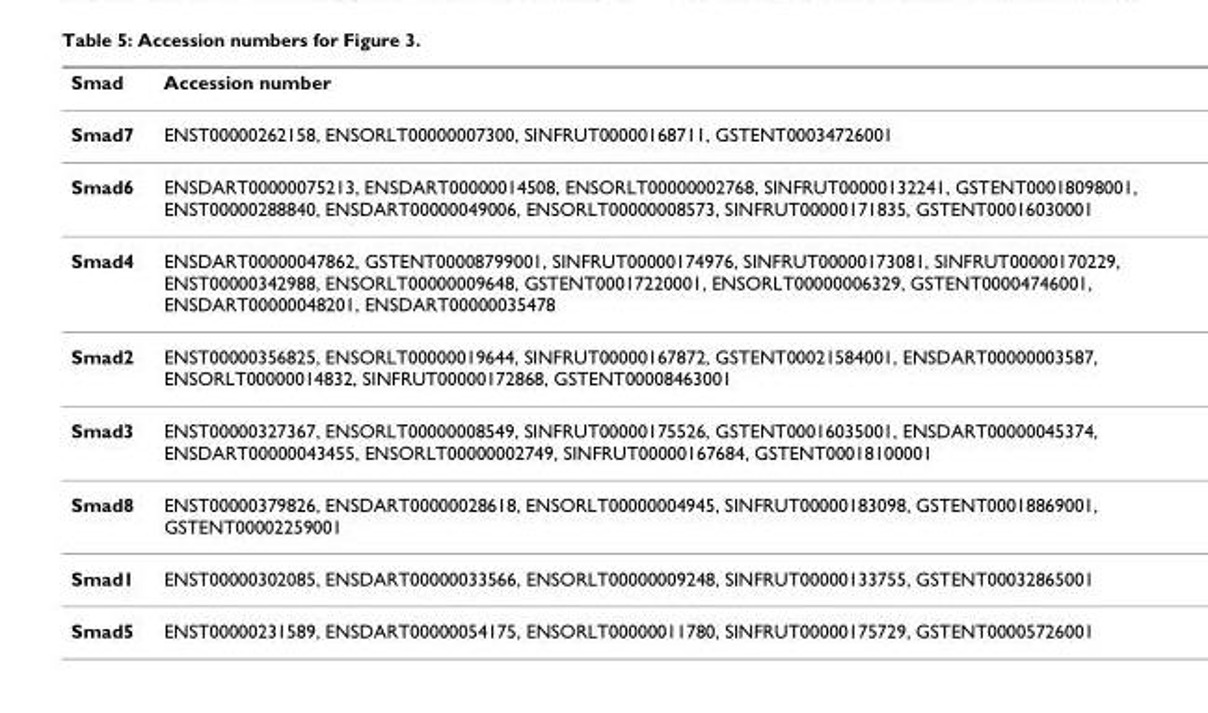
<table><thead><tr><td>Smad</td><td>Accession number</td></tr></thead><tbody><tr><td>Smad7</td><td>ENST00000262158, ENSORLT00000007300, SINFRUT00000168711, GSTENT00034726001</td></tr><tr><td>Smad6</td><td>ENSDART00000075213, ENSDART00000014508, ENSORLT00000002768, SINFRUT00000132241, GSTENT00018098001, ENST00000288840, ENSDART00000049006, ENSORLT00000008573, SINFRUT00000171835, GSTENT00016030001</td></tr><tr><td>Smad4</td><td>ENSDART00000047862, GSTENT00008799001, SINFRUT00000174976, SINFRUT00000173081, SINFRUT00000170229, ENST00000342988, ENSORLT00000009648, GSTENT00017220001, ENSORLT00000006329, GSTENT00004746001, ENSDART00000048201, ENSDART00000035478</td></tr><tr><td>Smad2</td><td>ENST00000356825, ENSORLT00000019644, SINFRUT00000167872, GSTENT00021584001, ENSDART00000003587, ENSORLT00000014832, SINFRUT00000172868, GSTENT00008463001</td></tr><tr><td>Smad3</td><td>ENST00000327367, ENSORLT00000008549, SINFRUT00000175526, GSTENT00016035001, ENSDART00000045374, ENSDART00000043455, ENSORLT00000002749, SINFRUT00000167684, GSTENT00018100001</td></tr><tr><td>Smad8</td><td>ENST00000379826, ENSDART00000028618, ENSORLT00000004945, SINFRUT00000183098, GSTENT00018869001, GSTENT00002259001</td></tr><tr><td>Smad1</td><td>ENST00000302085, ENSDART00000033566, ENSORLT00000009248, SINFRUT00000133755, GSTENT00032865001</td></tr><tr><td>Smad5</td><td>ENST00000231589, ENSDART00000054175, ENSORLT00000011780, SINFRUT00000175729, GSTENT00005726001</td></tr></tbody></table>